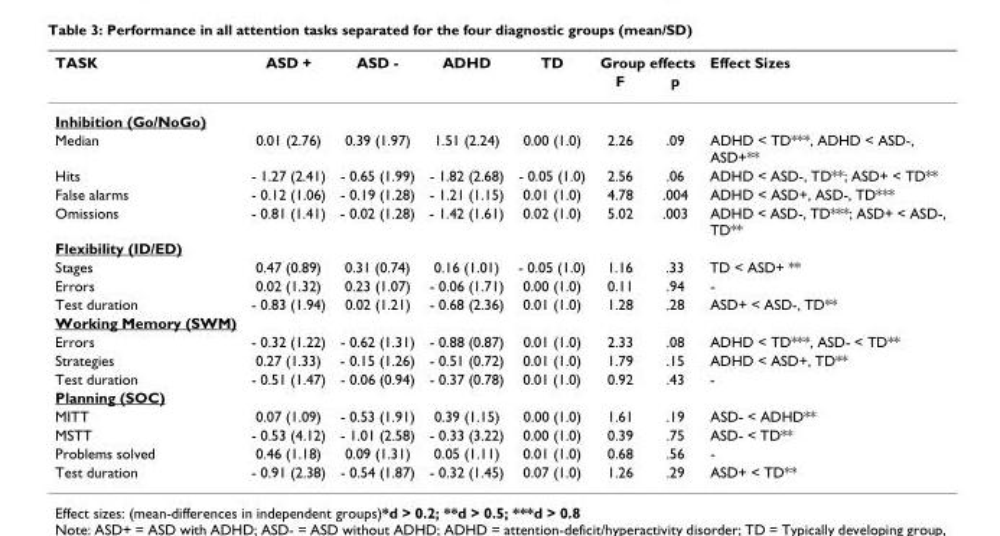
<table><thead><tr><td rowspan="2">TASK</td><td rowspan="2">ASD +</td><td rowspan="2">ASD -</td><td rowspan="2">ADHD</td><td rowspan="2">TD</td><td colspan="2">Group effects</td><td rowspan="2">Effect Sizes</td></tr><tr><td>F</td><td>p</td></tr></thead><tbody><tr><td colspan="8">Inhibition (Go/NoGo)</td></tr><tr><td>Median</td><td>0.01 (2.76)</td><td>0.39 (1.97)</td><td>1.51 (2.24)</td><td>0.00 (1.0)</td><td>2.26</td><td>.09</td><td>ADHD &lt; TD***, ADHD &lt; ASD-, ASD+**</td></tr><tr><td>Hits</td><td>- 1.27 (2.41)</td><td>- 0.65 (1.99)</td><td>- 1.82 (2.68)</td><td>- 0.05 (1.0)</td><td>2.56</td><td>.06</td><td>ADHD &lt; ASD-, TD**; ASD+ &lt; TD**</td></tr><tr><td>False alarms</td><td>- 0.12 (1.06)</td><td>- 0.19 (1.28)</td><td>- 1.21 (1.15)</td><td>0.01 (1.0)</td><td>4.78</td><td>.004</td><td>ADHD &lt; ASD+, ASD-, TD***</td></tr><tr><td>Omissions</td><td>- 0.81 (1.41)</td><td>- 0.02 (1.28)</td><td>- 1.42 (1.61)</td><td>0.02 (1.0)</td><td>5.02</td><td>.003</td><td>ADHD &lt; ASD-, TD***; ASD+ &lt; ASD-, TD**</td></tr><tr><td colspan="8">Flexibility (ID/ED)</td></tr><tr><td>Stages</td><td>0.47 (0.89)</td><td>0.31 (0.74)</td><td>0.16 (1.01)</td><td>- 0.05 (1.0)</td><td>1.16</td><td>.33</td><td>TD &lt; ASD+ **</td></tr><tr><td>Errors</td><td>0.02 (1.32)</td><td>0.23 (1.07)</td><td>- 0.06 (1.71)</td><td>0.00 (1.0)</td><td>0.11</td><td>.94</td><td>-</td></tr><tr><td>Test duration</td><td>- 0.83 (1.94)</td><td>0.02 (1.21)</td><td>- 0.68 (2.36)</td><td>0.01 (1.0)</td><td>1.28</td><td>.28</td><td>ASD+ &lt; ASD-, TD**</td></tr><tr><td colspan="8">Working Memory (SWM)</td></tr><tr><td>Errors</td><td>- 0.32 (1.22)</td><td>- 0.62 (1.31)</td><td>- 0.88 (0.87)</td><td>0.01 (1.0)</td><td>2.33</td><td>.08</td><td>ADHD &lt; TD***, ASD- &lt; TD**</td></tr><tr><td>Strategies</td><td>0.27 (1.33)</td><td>- 0.15 (1.26)</td><td>- 0.51 (0.72)</td><td>0.01 (1.0)</td><td>1.79</td><td>.15</td><td>ADHD &lt; ASD+, TD**</td></tr><tr><td>Test duration</td><td>- 0.51 (1.47)</td><td>- 0.06 (0.94)</td><td>- 0.37 (0.78)</td><td>0.01 (1.0)</td><td>0.92</td><td>.43</td><td>-</td></tr><tr><td colspan="8">Planning (SOC)</td></tr><tr><td>MITT</td><td>0.07 (1.09)</td><td>- 0.53 (1.91)</td><td>0.39 (1.15)</td><td>0.00 (1.0)</td><td>1.61</td><td>.19</td><td>ASD- &lt; ADHD**</td></tr><tr><td>MSTT</td><td>- 0.53 (4.12)</td><td>- 1.01 (2.58)</td><td>- 0.33 (3.22)</td><td>0.00 (1.0)</td><td>0.39</td><td>.75</td><td>ASD- &lt; TD**</td></tr><tr><td>Problems solved</td><td>0.46 (1.18)</td><td>0.09 (1.31)</td><td>0.05 (1.11)</td><td>0.01 (1.0)</td><td>0.68</td><td>.56</td><td>-</td></tr><tr><td>Test duration</td><td>- 0.91 (2.38)</td><td>- 0.54 (1.87)</td><td>- 0.32 (1.45)</td><td>0.07 (1.0)</td><td>1.26</td><td>.29</td><td>ASD+ &lt; TD**</td></tr></tbody></table>